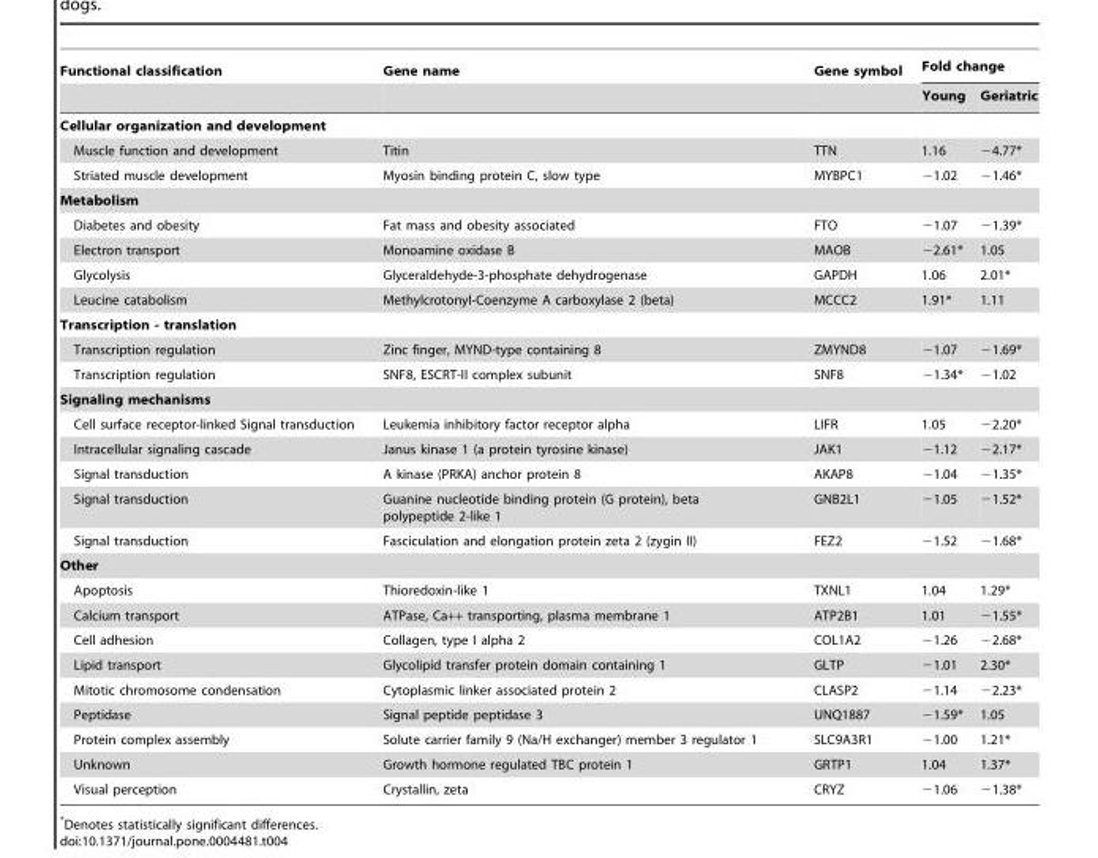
<table><thead><tr><td rowspan="2">Functional classification</td><td rowspan="2">Gene name</td><td rowspan="2">Gene symbol</td><td colspan="2">Fold change</td></tr><tr><td>Young</td><td>Geriatric</td></tr></thead><tbody><tr><td colspan="5">Cellular organization and development</td></tr><tr><td>Muscle function and development</td><td>Titin</td><td>TTN</td><td>1.16</td><td>−4.77*</td></tr><tr><td>Striated muscle development</td><td>Myosin binding protein C, slow type</td><td>MYBPC1</td><td>−1.02</td><td>−1.46*</td></tr><tr><td colspan="5">Metabolism</td></tr><tr><td>Diabetes and obesity</td><td>Fat mass and obesity associated</td><td>FTO</td><td>−1.07</td><td>−1.39*</td></tr><tr><td>Electron transport</td><td>Monoamine oxidase B</td><td>MAOB</td><td>−2.61*</td><td>1.05</td></tr><tr><td>Glycolysis</td><td>Glyceraldehyde-3-phosphate dehydrogenase</td><td>GAPDH</td><td>1.06</td><td>2.01*</td></tr><tr><td>Leucine catabolism</td><td>Methylcrotonyl-Coenzyme A carboxylase 2 (beta)</td><td>MCCC2</td><td>1.91*</td><td>1.11</td></tr><tr><td colspan="5">Transcription - translation</td></tr><tr><td>Transcription regulation</td><td>Zinc finger, MYND-type containing 8</td><td>ZMYND8</td><td>−1.07</td><td>−1.69*</td></tr><tr><td>Transcription regulation</td><td>SNF8, ESCRT-II complex subunit</td><td>SNF8</td><td>−1.34*</td><td>−1.02</td></tr><tr><td colspan="5">Signaling mechanisms</td></tr><tr><td>Cell surface receptor-linked Signal transduction</td><td>Leukemia inhibitory factor receptor alpha</td><td>LIFR</td><td>1.05</td><td>−2.20*</td></tr><tr><td>Intracellular signaling cascade</td><td>Janus kinase 1 (a protein tyrosine kinase)</td><td>JAK1</td><td>−1.12</td><td>−2.17*</td></tr><tr><td>Signal transduction</td><td>A kinase (PRKA) anchor protein 8</td><td>AKAP8</td><td>−1.04</td><td>−1.35*</td></tr><tr><td>Signal transduction</td><td>Guanine nucleotide binding protein (G protein), beta polypeptide 2-like 1</td><td>GNB2L1</td><td>−1.05</td><td>−1.52*</td></tr><tr><td>Signal transduction</td><td>Fasciculation and elongation protein zeta 2 (zygin II)</td><td>FEZ2</td><td>−1.52</td><td>−1.68*</td></tr><tr><td colspan="5">Other</td></tr><tr><td>Apoptosis</td><td>Thioredoxin-like 1</td><td>TXNL1</td><td>1.04</td><td>1.29*</td></tr><tr><td>Calcium transport</td><td>ATPase, Ca++ transporting, plasma membrane 1</td><td>ATP2B1</td><td>1.01</td><td>−1.55*</td></tr><tr><td>Cell adhesion</td><td>Collagen, type I alpha 2</td><td>COL1A2</td><td>−1.26</td><td>−2.68*</td></tr><tr><td>Lipid transport</td><td>Glycolipid transfer protein domain containing 1</td><td>GLTP</td><td>−1.01</td><td>2.30*</td></tr><tr><td>Mitotic chromosome condensation</td><td>Cytoplasmic linker associated protein 2</td><td>CLASP2</td><td>−1.14</td><td>−2.23*</td></tr><tr><td>Peptidase</td><td>Signal peptide peptidase 3</td><td>UNQ1887</td><td>−1.59*</td><td>1.05</td></tr><tr><td>Protein complex assembly</td><td>Solute carrier family 9 (Na/H exchanger) member 3 regulator 1</td><td>SLC9A3R1</td><td>−1.00</td><td>1.21*</td></tr><tr><td>Unknown</td><td>Growth hormone regulated TBC protein 1</td><td>GRTP1</td><td>1.04</td><td>1.37*</td></tr><tr><td>Visual perception</td><td>Crystallin, zeta</td><td>CRYZ</td><td>−1.06</td><td>−1.38*</td></tr></tbody></table>